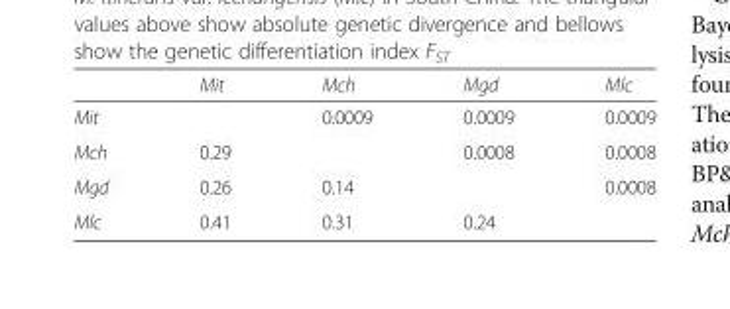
<table><thead><tr><td></td><td>Mit</td><td>Mch</td><td>Mgd</td><td>Mlc</td></tr></thead><tbody><tr><td>Mit</td><td></td><td>0.0009</td><td>0.0009</td><td>0.0009</td></tr><tr><td>Mch</td><td>0.29</td><td></td><td>0.0008</td><td>0.0008</td></tr><tr><td>Mgd</td><td>0.26</td><td>0.14</td><td></td><td>0.0008</td></tr><tr><td>Mlc</td><td>0.41</td><td>0.31</td><td>0.24</td><td></td></tr></tbody></table>